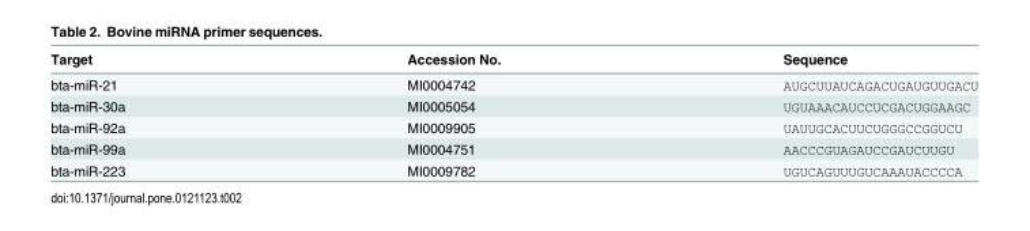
<table><thead><tr><td>Target</td><td>Accession No.</td><td>Sequence</td></tr></thead><tbody><tr><td>bta-miR-21</td><td>MI0004742</td><td>AUGCUUAUCAGACUGAUGUUGACU</td></tr><tr><td>bta-miR-30a</td><td>MI0005054</td><td>UGUAAACAUCCUCGACUGGAAGC</td></tr><tr><td>bta-miR-92a</td><td>MI0009905</td><td>UAUUGCACUUCUGGGCCGGUCU</td></tr><tr><td>bta-miR-99a</td><td>MI0004751</td><td>AACCCGUAGAUCCGAUCUUGU</td></tr><tr><td>bta-miR-223</td><td>MI0009782</td><td>UGUCAGUUUGUCAAAUACCCCA</td></tr></tbody></table>